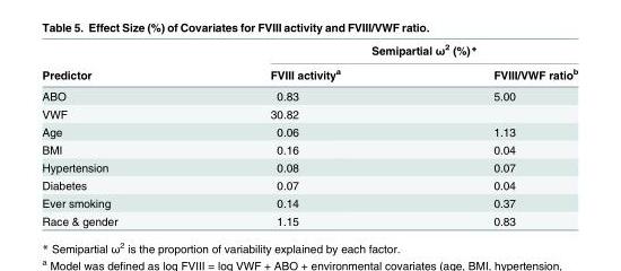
<table><thead><tr><td rowspan="2">Predictor</td><td colspan="2">Semipartial ω<sup>2</sup> (%)*</td></tr><tr><td>FVIII activity<sup>a</sup></td><td>FVIII/VWF ratio<sup>b</sup></td></tr></thead><tbody><tr><td>ABO</td><td>0.83</td><td>5.00</td></tr><tr><td>VWF</td><td>30.82</td><td></td></tr><tr><td>Age</td><td>0.06</td><td>1.13</td></tr><tr><td>BMI</td><td>0.16</td><td>0.04</td></tr><tr><td>Hypertension</td><td>0.08</td><td>0.07</td></tr><tr><td>Diabetes</td><td>0.07</td><td>0.04</td></tr><tr><td>Ever smoking</td><td>0.14</td><td>0.37</td></tr><tr><td>Race &amp; gender</td><td>1.15</td><td>0.83</td></tr></tbody></table>